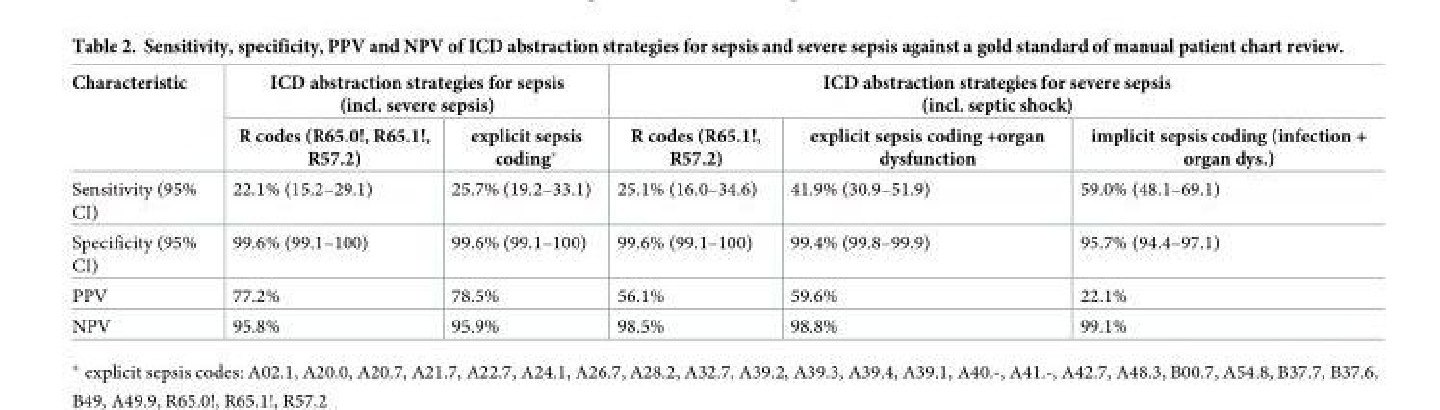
<table><thead><tr><td rowspan="2">Characteristic</td><td colspan="2">ICD abstraction strategies for sepsis (incl. severe sepsis)</td><td colspan="3">ICD abstraction strategies for severe sepsis (incl. septic shock)</td></tr><tr><td>R codes (R65.0!, R65.1!, R57.2)</td><td>explicit sepsis coding*</td><td>R codes (R65.1!, R57.2)</td><td>explicit sepsis coding +organ dysfunction</td><td>implicit sepsis coding (infection + organ dys.)</td></tr></thead><tbody><tr><td>Sensitivity (95% CI)</td><td>22.1% (15.2–29.1)</td><td>25.7% (19.2–33.1)</td><td>25.1% (16.0–34.6)</td><td>41.9% (30.9–51.9)</td><td>59.0% (48.1–69.1)</td></tr><tr><td>Specificity (95% CI)</td><td>99.6% (99.1–100)</td><td>99.6% (99.1–100)</td><td>99.6% (99.1–100)</td><td>99.4% (99.8–99.9)</td><td>95.7% (94.4–97.1)</td></tr><tr><td>PPV</td><td>77.2%</td><td>78.5%</td><td>56.1%</td><td>59.6%</td><td>22.1%</td></tr><tr><td>NPV</td><td>95.8%</td><td>95.9%</td><td>98.5%</td><td>98.8%</td><td>99.1%</td></tr></tbody></table>